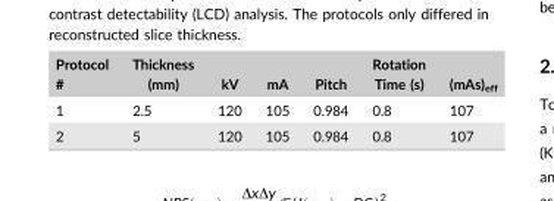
<table><thead><tr><td>Protocol #</td><td>Thickness (mm)</td><td>kV</td><td>mA</td><td>Pitch</td><td>Rotation Time (s)</td><td>(mAs)<sub>eff</sub></td></tr></thead><tbody><tr><td>1</td><td>2.5</td><td>120</td><td>105</td><td>0.984</td><td>0.8</td><td>107</td></tr><tr><td>2</td><td>5</td><td>120</td><td>105</td><td>0.984</td><td>0.8</td><td>107</td></tr></tbody></table>